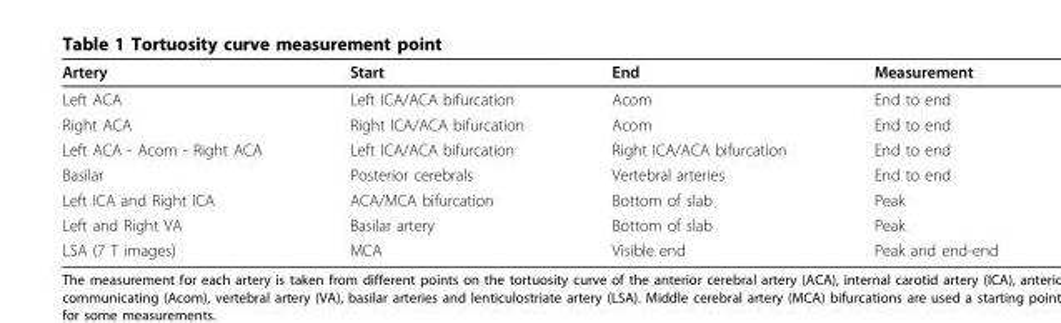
<table><thead><tr><td>Artery</td><td>Start</td><td>End</td><td>Measurement</td></tr></thead><tbody><tr><td>Left ACA</td><td>Left ICA/ACA bifurcation</td><td>Acom</td><td>End to end</td></tr><tr><td>Right ACA</td><td>Right ICA/ACA bifurcation</td><td>Acom</td><td>End to end</td></tr><tr><td>Left ACA - Acom - Right ACA</td><td>Left ICA/ACA bifurcation</td><td>Right ICA/ACA bifurcation</td><td>End to end</td></tr><tr><td>Basilar</td><td>Posterior cerebrals</td><td>Vertebral arteries</td><td>End to end</td></tr><tr><td>Left ICA and Right ICA</td><td>ACA/MCA bifurcation</td><td>Bottom of slab</td><td>Peak</td></tr><tr><td>Left and Right VA</td><td>Basilar artery</td><td>Bottom of slab</td><td>Peak</td></tr><tr><td>LSA (7 T images)</td><td>MCA</td><td>Visible end</td><td>Peak and end-end</td></tr></tbody></table>